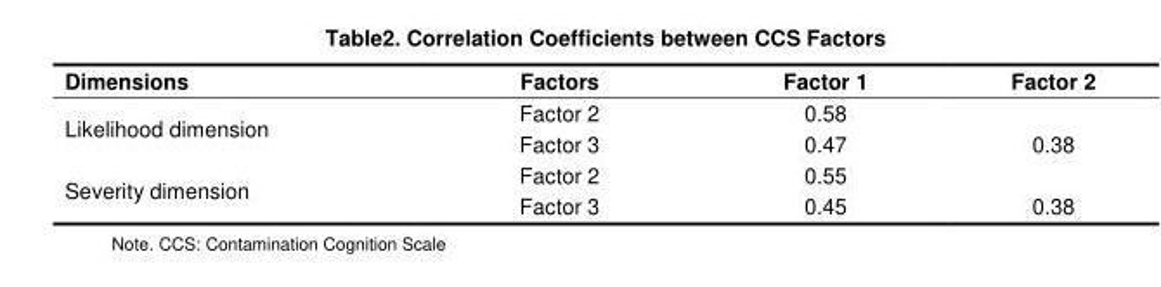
<table><thead><tr><td>Dimensions</td><td>Factors</td><td>Factor 1</td><td>Factor 2</td></tr></thead><tbody><tr><td rowspan="2">Likelihood dimension</td><td>Factor 2</td><td>0.58</td><td></td></tr><tr><td>Factor 3</td><td>0.47</td><td>0.38</td></tr><tr><td rowspan="2">Severity dimension</td><td>Factor 2</td><td>0.55</td><td></td></tr><tr><td>Factor 3</td><td>0.45</td><td>0.38</td></tr></tbody></table>